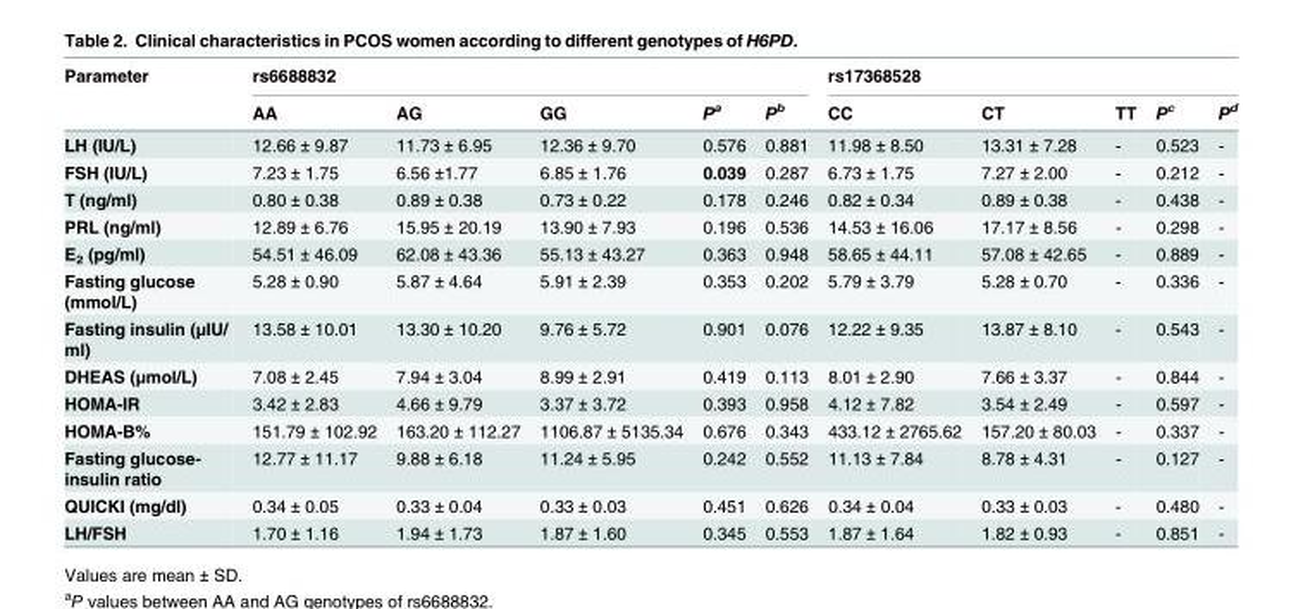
<table><thead><tr><td rowspan="2">Parameter</td><td colspan="5">rs6688832</td><td colspan="5">rs17368528</td></tr><tr><td>AA</td><td>AG</td><td>GG</td><td>P<sup>a</sup></td><td>P<sup>b</sup></td><td>CC</td><td>CT</td><td>TT</td><td>P<sup>c</sup></td><td>P<sup>d</sup></td></tr></thead><tbody><tr><td>LH (IU/L)</td><td>12.66 ± 9.87</td><td>11.73 ± 6.95</td><td>12.36 ± 9.70</td><td>0.576</td><td>0.881</td><td>11.98 ± 8.50</td><td>13.31 ± 7.28</td><td>-</td><td>0.523</td><td>-</td></tr><tr><td>FSH (IU/L)</td><td>7.23 ± 1.75</td><td>6.56 ±1.77</td><td>6.85 ± 1.76</td><td>0.039</td><td>0.287</td><td>6.73 ± 1.75</td><td>7.27 ± 2.00</td><td>-</td><td>0.212</td><td>-</td></tr><tr><td>T (ng/ml)</td><td>0.80 ± 0.38</td><td>0.89 ± 0.38</td><td>0.73 ± 0.22</td><td>0.178</td><td>0.246</td><td>0.82 ± 0.34</td><td>0.89 ± 0.38</td><td>-</td><td>0.438</td><td>-</td></tr><tr><td>PRL (ng/ml)</td><td>12.89 ± 6.76</td><td>15.95 ± 20.19</td><td>13.90 ± 7.93</td><td>0.196</td><td>0.536</td><td>14.53 ± 16.06</td><td>17.17 ± 8.56</td><td>-</td><td>0.298</td><td>-</td></tr><tr><td>E<sub>2</sub> (pg/ml)</td><td>54.51 ± 46.09</td><td>62.08 ± 43.36</td><td>55.13 ± 43.27</td><td>0.363</td><td>0.948</td><td>58.65 ± 44.11</td><td>57.08 ± 42.65</td><td>-</td><td>0.889</td><td>-</td></tr><tr><td>Fasting glucose (mmol/L)</td><td>5.28 ± 0.90</td><td>5.87 ± 4.64</td><td>5.91 ± 2.39</td><td>0.353</td><td>0.202</td><td>5.79 ± 3.79</td><td>5.28 ± 0.70</td><td>-</td><td>0.336</td><td>-</td></tr><tr><td>Fasting insulin (μIU/ ml)</td><td>13.58 ± 10.01</td><td>13.30 ± 10.20</td><td>9.76 ± 5.72</td><td>0.901</td><td>0.076</td><td>12.22 ± 9.35</td><td>13.87 ± 8.10</td><td>-</td><td>0.543</td><td>-</td></tr><tr><td>DHEAS (μmol/L)</td><td>7.08 ± 2.45</td><td>7.94 ± 3.04</td><td>8.99 ± 2.91</td><td>0.419</td><td>0.113</td><td>8.01 ± 2.90</td><td>7.66 ± 3.37</td><td>-</td><td>0.844</td><td>-</td></tr><tr><td>HOMA-IR</td><td>3.42 ± 2.83</td><td>4.66 ± 9.79</td><td>3.37 ± 3.72</td><td>0.393</td><td>0.958</td><td>4.12 ± 7.82</td><td>3.54 ± 2.49</td><td>-</td><td>0.597</td><td>-</td></tr><tr><td>HOMA-B%</td><td>151.79 ± 102.92</td><td>163.20 ± 112.27</td><td>1106.87 ± 5135.34</td><td>0.676</td><td>0.343</td><td>433.12 ± 2765.62</td><td>157.20 ± 80.03</td><td>-</td><td>0.337</td><td>-</td></tr><tr><td>Fasting glucose- insulin ratio</td><td>12.77 ± 11.17</td><td>9.88 ± 6.18</td><td>11.24 ± 5.95</td><td>0.242</td><td>0.552</td><td>11.13 ± 7.84</td><td>8.78 ± 4.31</td><td>-</td><td>0.127</td><td>-</td></tr><tr><td>QUICKI (mg/dl)</td><td>0.34 ± 0.05</td><td>0.33 ± 0.04</td><td>0.33 ± 0.03</td><td>0.451</td><td>0.626</td><td>0.34 ± 0.04</td><td>0.33 ± 0.03</td><td>-</td><td>0.480</td><td>-</td></tr><tr><td>LH/FSH</td><td>1.70 ± 1.16</td><td>1.94 ± 1.73</td><td>1.87 ± 1.60</td><td>0.345</td><td>0.553</td><td>1.87 ± 1.64</td><td>1.82 ± 0.93</td><td>-</td><td>0.851</td><td>-</td></tr></tbody></table>